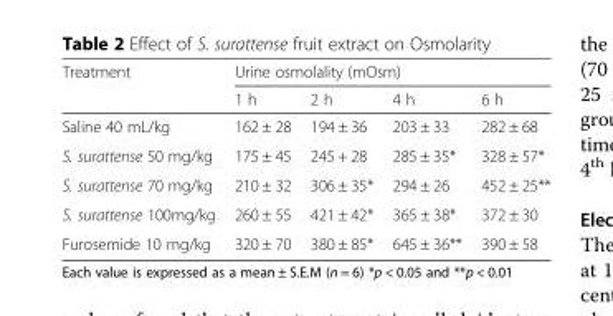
<table><thead><tr><td rowspan="2">Treatment</td><td colspan="4">Urine osmolality (mOsm)</td></tr><tr><td>1 h</td><td>2 h</td><td>4 h</td><td>6 h</td></tr></thead><tbody><tr><td>Saline 40 mL/kg</td><td>162 ± 28</td><td>194 ± 36</td><td>203 ± 33</td><td>282 ± 68</td></tr><tr><td>S. surattense 50 mg/kg</td><td>175 ± 45</td><td>245 + 28</td><td>285 ± 35*</td><td>328 ± 57*</td></tr><tr><td>S. surattense 70 mg/kg</td><td>210 ± 32</td><td>306 ± 35*</td><td>294 ± 26</td><td>452 ± 25**</td></tr><tr><td>S. surattense 100mg/kg</td><td>260 ± 55</td><td>421 ± 42*</td><td>365 ± 38*</td><td>372 ± 30</td></tr><tr><td>Furosemide 10 mg/kg</td><td>320 ± 70</td><td>380 ± 85*</td><td>645 ± 36**</td><td>390 ± 58</td></tr></tbody></table>